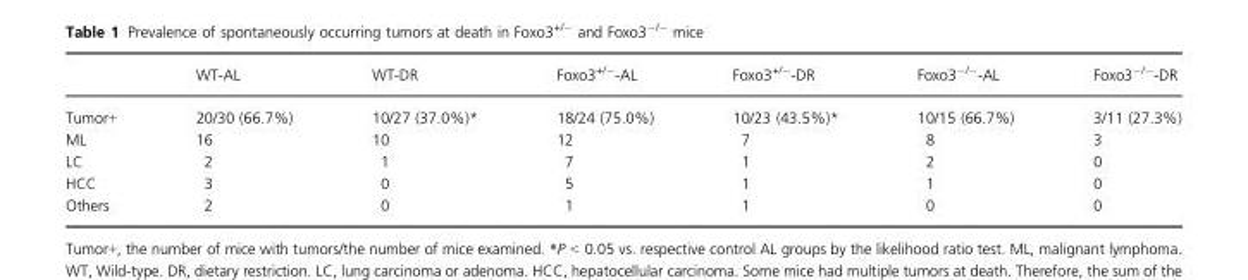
<table><thead><tr><td></td><td>WT-AL</td><td>WT-DR</td><td>Foxo3<sup>+/−</sup>-AL</td><td>Foxo3<sup>+/−</sup>-DR</td><td>Foxo3<sup>−/−</sup>-AL</td><td>Foxo3<sup>−/−</sup>-DR</td></tr></thead><tbody><tr><td>Tumor+</td><td>20/30 (66.7%)</td><td>10/27 (37.0%)*</td><td>18/24 (75.0%)</td><td>10/23 (43.5%)*</td><td>10/15 (66.7%)</td><td>3/11 (27.3%)</td></tr><tr><td>ML</td><td>16</td><td>10</td><td>12</td><td>7</td><td>8</td><td>3</td></tr><tr><td>LC</td><td>2</td><td>1</td><td>7</td><td>1</td><td>2</td><td>0</td></tr><tr><td>HCC</td><td>3</td><td>0</td><td>5</td><td>1</td><td>1</td><td>0</td></tr><tr><td>Others</td><td>2</td><td>0</td><td>1</td><td>1</td><td>0</td><td>0</td></tr></tbody></table>